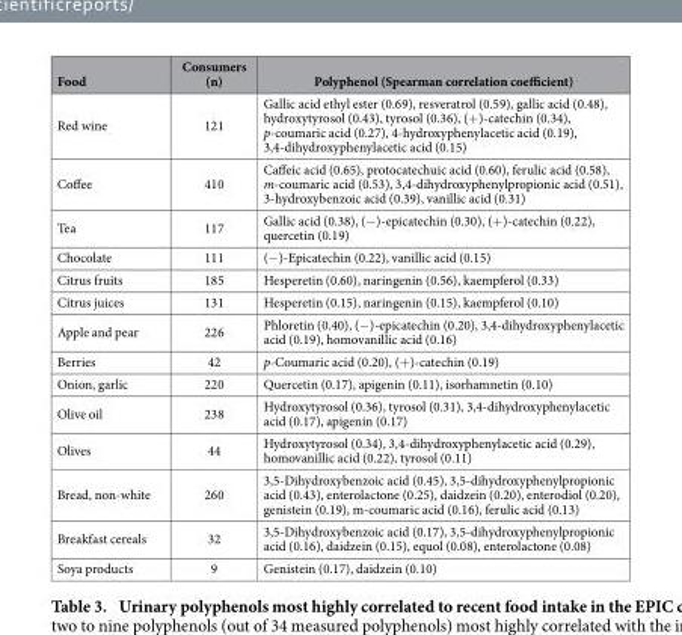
<table><thead><tr><td>Food</td><td>Consumers (n)</td><td>Polyphenol (Spearman correlation coefficient)</td></tr></thead><tbody><tr><td>Red wine</td><td>121</td><td>Gallic acid ethyl ester (0.69), resveratrol (0.59), gallic acid (0.48), hydroxytyrosol (0.43), tyrosol (0.36), (+ )-catechin (0.34), p-coumaric acid (0.27), 4-hydroxyphenylacetic acid (0.19), 3,4-dihydroxyphenylacetic acid (0.15)</td></tr><tr><td>Coffee</td><td>410</td><td>Caffeic acid (0.65), protocatechuic acid (0.60), ferulic acid (0.58), m-coumaric acid (0.53), 3,4-dihydroxyphenylpropionic acid (0.51), 3-hydroxybenzoic acid (0.39), vanillic acid (0.31)</td></tr><tr><td>Tea</td><td>117</td><td>Gallic acid (0.38), (− )-epicatechin (0.30), (+ )-catechin (0.22), quercetin (0.19)</td></tr><tr><td>Chocolate</td><td>111</td><td>(− )-Epicatechin (0.22), vanillic acid (0.15)</td></tr><tr><td>Citrus fruits</td><td>185</td><td>Hesperetin (0.60), naringenin (0.56), kaempferol (0.33)</td></tr><tr><td>Citrus juices</td><td>131</td><td>Hesperetin (0.15), naringenin (0.15), kaempferol (0.10)</td></tr><tr><td>Apple and pear</td><td>226</td><td>Phloretin (0.40), (− )-epicatechin (0.20), 3,4-dihydroxyphenylacetic acid (0.19), homovanillic acid (0.16)</td></tr><tr><td>Berries</td><td>42</td><td>p-Coumaric acid (0.20), (+ )-catechin (0.19)</td></tr><tr><td>Onion, garlic</td><td>220</td><td>Quercetin (0.17), apigenin (0.11), isorhamnetin (0.10)</td></tr><tr><td>Olive oil</td><td>238</td><td>Hydroxytyrosol (0.36), tyrosol (0.31), 3,4-dihydroxyphenylacetic acid (0.17), apigenin (0.17)</td></tr><tr><td>Olives</td><td>44</td><td>Hydroxytyrosol (0.34), 3,4-dihydroxyphenylacetic acid (0.29), homovanillic acid (0.22), tyrosol (0.11)</td></tr><tr><td>Bread, non-white</td><td>260</td><td>3,5-Dihydroxybenzoic acid (0.45), 3,5-dihydroxyphenylpropionic acid (0.43), enterolactone (0.25), daidzein (0.20), enterodiol (0.20), genistein (0.19), m-coumaric acid (0.16), ferulic acid (0.13)</td></tr><tr><td>Breakfast cereals</td><td>32</td><td>3,5-Dihydroxybenzoic acid (0.17), 3,5-dihydroxyphenylpropionic acid (0.16), daidzein (0.15), equol (0.08), enterolactone (0.08)</td></tr><tr><td>Soya products</td><td>9</td><td>Genistein (0.17), daidzein (0.10)</td></tr></tbody></table>